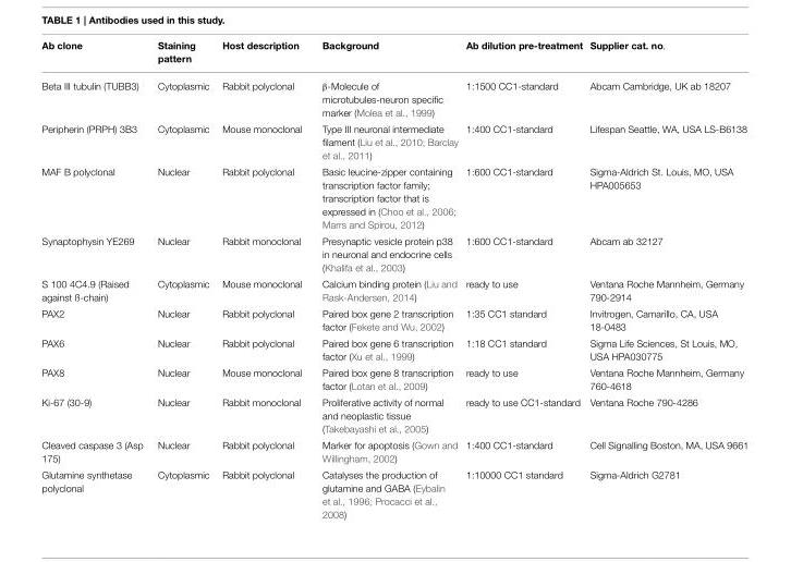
<table><thead><tr><td>Ab clone</td><td>Staining pattern</td><td>Host description</td><td>Background</td><td>Ab dilution pre-treatment</td><td>Supplier cat. no.</td></tr></thead><tbody><tr><td>Beta III tubulin (TUBB3)</td><td>Cytoplasmic</td><td>Rabbit polyclonal</td><td>β-Molecule of microtubules-neuron specific marker (Molea et al., 1999)</td><td>1:1500 CC1-standard</td><td>Abcam Cambridge, UK ab 18207</td></tr><tr><td>Peripherin (PRPH) 3B3</td><td>Cytoplasmic</td><td>Mouse monoclonal</td><td>Type III neuronal intermediate filament (Liu et al., 2010; Barclay et al., 2011)</td><td>1:400 CC1-standard</td><td>Lifespan Seattle, WA, USA LS-B6138</td></tr><tr><td>MAF B polyclonal</td><td>Nuclear</td><td>Rabbit polyclonal</td><td>Basic leucine-zipper containing transcription factor family; transcription factor that is expressed in (Choo et al., 2006; Marrs and Spirou, 2012)</td><td>1:600 CC1-standard</td><td>Sigma-Aldrich St. Louis, MO, USA HPA005653</td></tr><tr><td>Synaptophysin YE269</td><td>Nuclear</td><td>Rabbit monoclonal</td><td>Presynaptic vesicle protein p38 in neuronal and endocrine cells (Khalifa et al., 2003)</td><td>1:600 CC1-standard</td><td>Abcam ab 32127</td></tr><tr><td>S 100 4C4.9 (Raised against ß-chain)</td><td>Cytoplasmic</td><td>Mouse monoclonal</td><td>Calcium binding protein (Liu and Rask-Andersen, 2014)</td><td>ready to use</td><td>Ventana Roche Mannheim, Germany 790-2914</td></tr><tr><td>PAX2</td><td>Nuclear</td><td>Rabbit polyclonal</td><td>Paired box gene 2 transcription factor (Fekete and Wu, 2002)</td><td>1:35 CC1 standard</td><td>Invitrogen, Camarillo, CA, USA 18-0483</td></tr><tr><td>PAX6</td><td>Nuclear</td><td>Rabbit polyclonal</td><td>Paired box gene 6 transcription factor (Xu et al., 1999)</td><td>1:18 CC1 standard</td><td>Sigma Life Sciences, St Louis, MO, USA HPA030775</td></tr><tr><td>PAX8</td><td>Nuclear</td><td>Mouse monoclonal</td><td>Paired box gene 8 transcription factor (Lotan et al., 2009)</td><td>ready to use</td><td>Ventana Roche Mannheim, Germany 760-4618</td></tr><tr><td>Ki-67 (30-9)</td><td>Nuclear</td><td>Rabbit monoclonal</td><td>Proliferative activity of normal and neoplastic tissue (Takebayashi et al., 2005)</td><td>ready to use CC1-standard</td><td>Ventana Roche 790-4286</td></tr><tr><td>Cleaved caspase 3 (Asp 175)</td><td>Nuclear</td><td>Rabbit polyclonal</td><td>Marker for apoptosis (Gown and Willingham, 2002)</td><td>1:400 CC1-standard</td><td>Cell Signalling Boston, MA, USA 9661</td></tr><tr><td>Glutamine synthetase polyclonal</td><td>Cytoplasmic</td><td>Rabbit polyclonal</td><td>Catalyses the production of glutamine and GABA (Eybalin et al., 1996; Procacci et al., 2008)</td><td>1:10000 CC1 standard</td><td>Sigma-Aldrich G2781</td></tr></tbody></table>